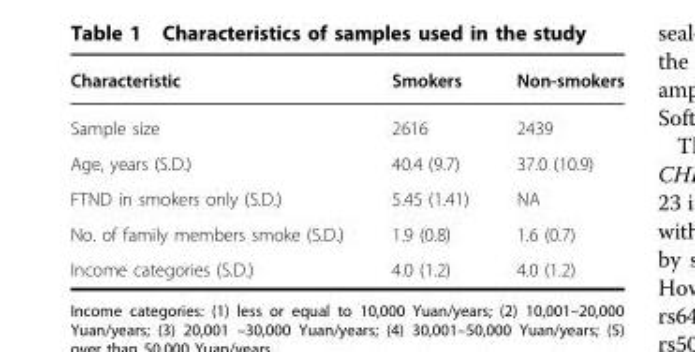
<table><thead><tr><td>Characteristic</td><td>Smokers</td><td>Non-smokers</td></tr></thead><tbody><tr><td>Sample size</td><td>2616</td><td>2439</td></tr><tr><td>Age, years (S.D.)</td><td>40.4 (9.7)</td><td>37.0 (10.9)</td></tr><tr><td>FTND in smokers only (S.D.)</td><td>5.45 (1.41)</td><td>NA</td></tr><tr><td>No. of family members smoke (S.D.)</td><td>1.9 (0.8)</td><td>1.6 (0.7)</td></tr><tr><td>Income categories (S.D.)</td><td>4.0 (1.2)</td><td>4.0 (1.2)</td></tr></tbody></table>